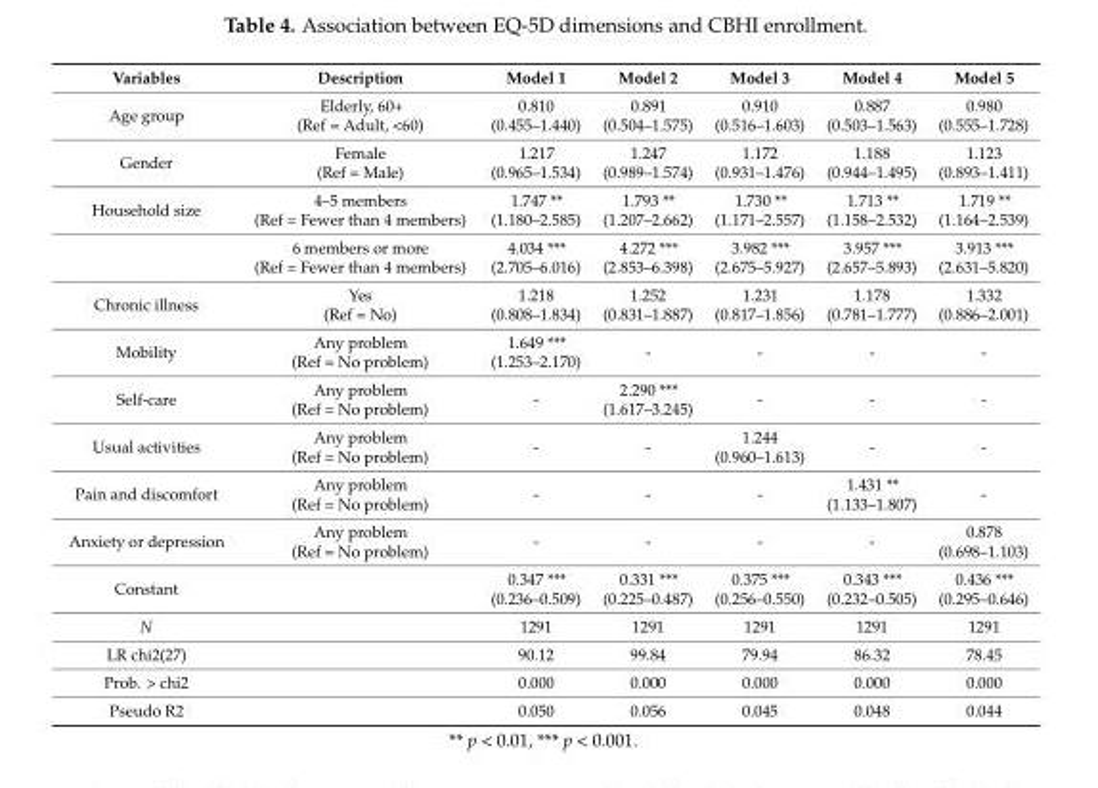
<table><thead><tr><td>Variables</td><td>Description</td><td>Model 1</td><td>Model 2</td><td>Model 3</td><td>Model 4</td><td>Model 5</td></tr></thead><tbody><tr><td>Age group</td><td>Elderly, 60+ (Ref = Adult, &lt;60)</td><td>0.810 (0.455–1.440)</td><td>0.891 (0.504–1.575)</td><td>0.910 (0.516–1.603)</td><td>0.887 (0.503–1.563)</td><td>0.980 (0.555–1.728)</td></tr><tr><td>Gender</td><td>Female (Ref = Male)</td><td>1.217 (0.965–1.534)</td><td>1.247 (0.989–1.574)</td><td>1.172 (0.931–1.476)</td><td>1.188 (0.944–1.495)</td><td>1.123 (0.893–1.411)</td></tr><tr><td rowspan="2">Household size</td><td>4–5 members (Ref = Fewer than 4 members)</td><td>1.747 ** (1.180–2.585)</td><td>1.793 ** (1.207–2.662)</td><td>1.730 ** (1.171–2.557)</td><td>1.713 ** (1.158–2.532)</td><td>1.719 ** (1.164–2.539)</td></tr><tr><td>6 members or more (Ref = Fewer than 4 members)</td><td>4.034 *** (2.705–6.016)</td><td>4.272 *** (2.853–6.398)</td><td>3.982 *** (2.675–5.927)</td><td>3.957 *** (2.657–5.893)</td><td>3.913 *** (2.631–5.820)</td></tr><tr><td>Chronic illness</td><td>Yes (Ref = No)</td><td>1.218 (0.808–1.834)</td><td>1.252 (0.831–1.887)</td><td>1.231 (0.817–1.856)</td><td>1.178 (0.781–1.777)</td><td>1.332 (0.886–2.001)</td></tr><tr><td>Mobility</td><td>Any problem (Ref = No problem)</td><td>1.649 *** (1.253–2.170)</td><td>-</td><td>-</td><td>-</td><td>-</td></tr><tr><td>Self-care</td><td>Any problem (Ref = No problem)</td><td>-</td><td>2.290 *** (1.617–3.245)</td><td>-</td><td>-</td><td>-</td></tr><tr><td>Usual activities</td><td>Any problem (Ref = No problem)</td><td>-</td><td>-</td><td>1.244 (0.960–1.613)</td><td>-</td><td>-</td></tr><tr><td>Pain and discomfort</td><td>Any problem (Ref = No problem)</td><td>-</td><td>-</td><td>-</td><td>1.431 ** (1.133–1.807)</td><td>-</td></tr><tr><td>Anxiety or depression</td><td>Any problem (Ref = No problem)</td><td>-</td><td>-</td><td>-</td><td>-</td><td>0.878 (0.698–1.103)</td></tr><tr><td>Constant</td><td></td><td>0.347 *** (0.236–0.509)</td><td>0.331 *** (0.225–0.487)</td><td>0.375 *** (0.256–0.550)</td><td>0.343 *** (0.232–0.505)</td><td>0.436 *** (0.295–0.646)</td></tr><tr><td>N</td><td></td><td>1291</td><td>1291</td><td>1291</td><td>1291</td><td>1291</td></tr><tr><td>LR chi2(27)</td><td></td><td>90.12</td><td>99.84</td><td>79.94</td><td>86.32</td><td>78.45</td></tr><tr><td>Prob. &gt; chi2</td><td></td><td>0.000</td><td>0.000</td><td>0.000</td><td>0.000</td><td>0.000</td></tr><tr><td>Pseudo R2</td><td></td><td>0.050</td><td>0.056</td><td>0.045</td><td>0.048</td><td>0.044</td></tr></tbody></table>